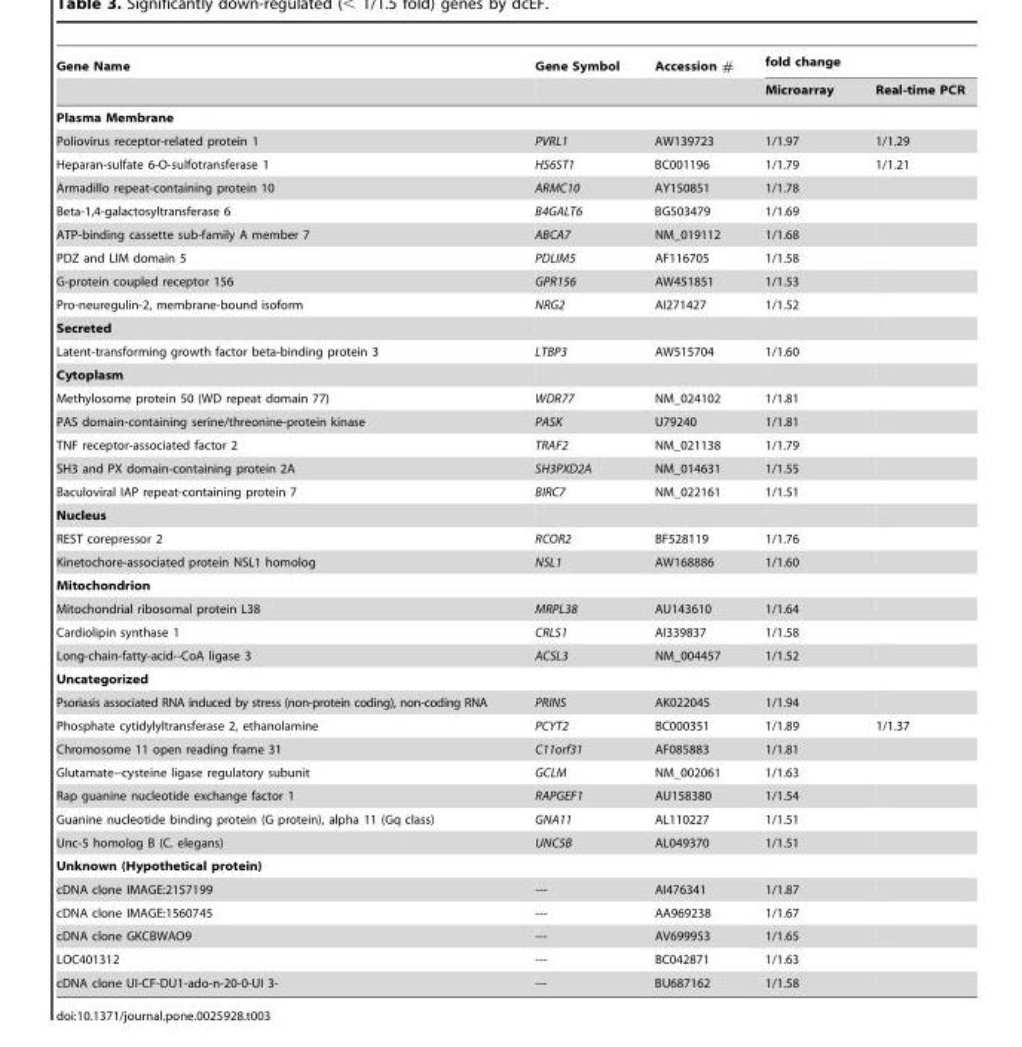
<table><thead><tr><td rowspan="2">Gene Name</td><td rowspan="2">Gene Symbol</td><td rowspan="2">Accession #</td><td colspan="2">fold change</td></tr><tr><td>Microarray</td><td>Real-time PCR</td></tr></thead><tbody><tr><td colspan="5">Plasma Membrane</td></tr><tr><td>Poliovirus receptor-related protein 1</td><td>PVRL1</td><td>AW139723</td><td>1/1.97</td><td>1/1.29</td></tr><tr><td>Heparan-sulfate 6-O-sulfotransferase 1</td><td>HS6ST1</td><td>BC001196</td><td>1/1.79</td><td>1/1.21</td></tr><tr><td>Armadillo repeat-containing protein 10</td><td>ARMC10</td><td>AY150851</td><td>1/1.78</td><td></td></tr><tr><td>Beta-1,4-galactosyltransferase 6</td><td>B4GALT6</td><td>BG503479</td><td>1/1.69</td><td></td></tr><tr><td>ATP-binding cassette sub-family A member 7</td><td>ABCA7</td><td>NM_019112</td><td>1/1.68</td><td></td></tr><tr><td>PDZ and LIM domain 5</td><td>PDLIM5</td><td>AF116705</td><td>1/1.58</td><td></td></tr><tr><td>G-protein coupled receptor 156</td><td>GPR156</td><td>AW451851</td><td>1/1.53</td><td></td></tr><tr><td>Pro-neuregulin-2, membrane-bound isoform</td><td>NRG2</td><td>AI271427</td><td>1/1.52</td><td></td></tr><tr><td colspan="5">Secreted</td></tr><tr><td>Latent-transforming growth factor beta-binding protein 3</td><td>LTBP3</td><td>AW515704</td><td>1/1.60</td><td></td></tr><tr><td colspan="5">Cytoplasm</td></tr><tr><td>Methylosome protein 50 (WD repeat domain 77)</td><td>WDR77</td><td>NM_024102</td><td>1/1.81</td><td></td></tr><tr><td>PAS domain-containing serine/threonine-protein kinase</td><td>PASK</td><td>U79240</td><td>1/1.81</td><td></td></tr><tr><td>TNF receptor-associated factor 2</td><td>TRAF2</td><td>NM_021138</td><td>1/1.79</td><td></td></tr><tr><td>SH3 and PX domain-containing protein 2A</td><td>SH3PXD2A</td><td>NM_014631</td><td>1/1.55</td><td></td></tr><tr><td>Baculoviral IAP repeat-containing protein 7</td><td>BIRC7</td><td>NM_022161</td><td>1/1.51</td><td></td></tr><tr><td colspan="5">Nucleus</td></tr><tr><td>REST corepressor 2</td><td>RCOR2</td><td>BF528119</td><td>1/1.76</td><td></td></tr><tr><td>Kinetochore-associated protein NSL1 homolog</td><td>NSL1</td><td>AW168886</td><td>1/1.60</td><td></td></tr><tr><td colspan="5">Mitochondrion</td></tr><tr><td>Mitochondrial ribosomal protein L38</td><td>MRPL38</td><td>AU143610</td><td>1/1.64</td><td></td></tr><tr><td>Cardiolipin synthase 1</td><td>CRLS1</td><td>AI339837</td><td>1/1.58</td><td></td></tr><tr><td>Long-chain-fatty-acid--CoA ligase 3</td><td>ACSL3</td><td>NM_004457</td><td>1/1.52</td><td></td></tr><tr><td colspan="5">Uncategorized</td></tr><tr><td>Psoriasis associated RNA induced by stress (non-protein coding), non-coding RNA</td><td>PRINS</td><td>AK022045</td><td>1/1.94</td><td></td></tr><tr><td>Phosphate cytidylyltransferase 2, ethanolamine</td><td>PCYT2</td><td>BC000351</td><td>1/1.89</td><td>1/1.37</td></tr><tr><td>Chromosome 11 open reading frame 31</td><td>C11orf31</td><td>AF085883</td><td>1/1.81</td><td></td></tr><tr><td>Glutamate--cysteine ligase regulatory subunit</td><td>GCLM</td><td>NM_002061</td><td>1/1.63</td><td></td></tr><tr><td>Rap guanine nucleotide exchange factor 1</td><td>RAPGEF1</td><td>AU158380</td><td>1/1.54</td><td></td></tr><tr><td>Guanine nucleotide binding protein (G protein), alpha 11 (Gq class)</td><td>GNA11</td><td>AL110227</td><td>1/1.51</td><td></td></tr><tr><td>Unc-5 homolog B (C. elegans)</td><td>UNC5B</td><td>AL049370</td><td>1/1.51</td><td></td></tr><tr><td colspan="5">Unknown (Hypothetical protein)</td></tr><tr><td>cDNA clone IMAGE:2157199</td><td>---</td><td>AI476341</td><td>1/1.87</td><td></td></tr><tr><td>cDNA clone IMAGE:1560745</td><td>---</td><td>AA969238</td><td>1/1.67</td><td></td></tr><tr><td>cDNA clone GKCBWAO9</td><td>---</td><td>AV699953</td><td>1/1.65</td><td></td></tr><tr><td>LOC401312</td><td>---</td><td>BC042871</td><td>1/1.63</td><td></td></tr><tr><td>cDNA clone UI-CF-DU1-ado-n-20-0-UI 3-</td><td>---</td><td>BU687162</td><td>1/1.58</td><td></td></tr></tbody></table>